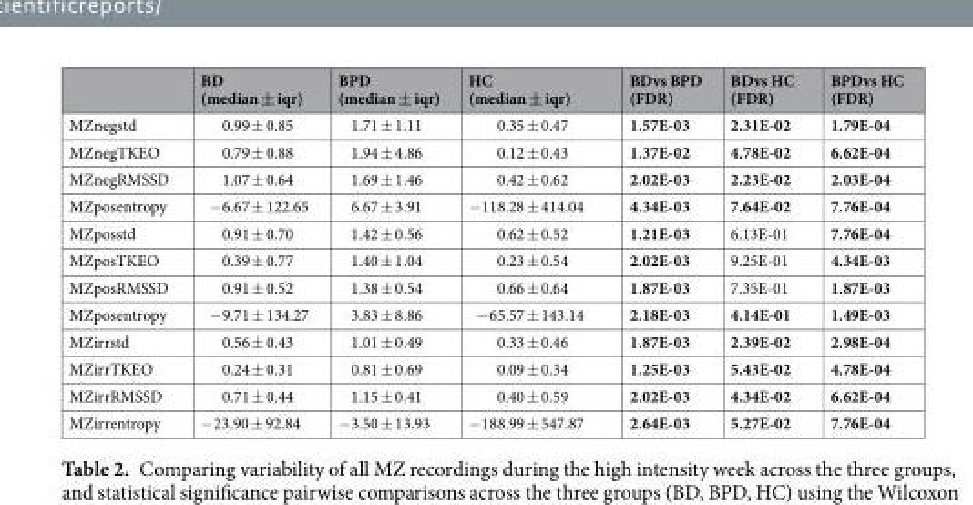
<table><thead><tr><td></td><td>BD (median ± iqr)</td><td>BPD (median ± iqr)</td><td>HC (median ± iqr)</td><td>BDvs BPD (FDR)</td><td>BDvs HC (FDR)</td><td>BPDvs HC (FDR)</td></tr></thead><tbody><tr><td>MZnegstd</td><td>0.99 ± 0.85</td><td>1.71 ± 1.11</td><td>0.35 ± 0.47</td><td>1.57E-03</td><td>2.31E-02</td><td>1.79E-04</td></tr><tr><td>MZnegTKEO</td><td>0.79 ± 0.88</td><td>1.94 ± 4.86</td><td>0.12 ± 0.43</td><td>1.37E-02</td><td>4.78E-02</td><td>6.62E-04</td></tr><tr><td>MZnegRMSSD</td><td>1.07 ± 0.64</td><td>1.69 ± 1.46</td><td>0.42 ± 0.62</td><td>2.02E-03</td><td>2.23E-02</td><td>2.03E-04</td></tr><tr><td>MZposentropy</td><td>−6.67 ± 122.65</td><td>6.67 ± 3.91</td><td>−118.28 ± 414.04</td><td>4.34E-03</td><td>7.64E-02</td><td>7.76E-04</td></tr><tr><td>MZposstd</td><td>0.91 ± 0.70</td><td>1.42 ± 0.56</td><td>0.62 ± 0.52</td><td>1.21E-03</td><td>6.13E-01</td><td>7.76E-04</td></tr><tr><td>MZposTKEO</td><td>0.39 ± 0.77</td><td>1.40 ± 1.04</td><td>0.23 ± 0.54</td><td>2.02E-03</td><td>9.25E-01</td><td>4.34E-03</td></tr><tr><td>MZposRMSSD</td><td>0.91 ± 0.52</td><td>1.38 ± 0.54</td><td>0.66 ± 0.64</td><td>1.87E-03</td><td>7.35E-01</td><td>1.87E-03</td></tr><tr><td>MZposentropy</td><td>−9.71 ± 134.27</td><td>3.83 ± 8.86</td><td>−65.57 ± 143.14</td><td>2.18E-03</td><td>4.14E-01</td><td>1.49E-03</td></tr><tr><td>MZirrstd</td><td>0.56 ± 0.43</td><td>1.01 ± 0.49</td><td>0.33 ± 0.46</td><td>1.87E-03</td><td>2.39E-02</td><td>2.98E-04</td></tr><tr><td>MZirrTKEO</td><td>0.24 ± 0.31</td><td>0.81 ± 0.69</td><td>0.09 ± 0.34</td><td>1.25E-03</td><td>5.43E-02</td><td>4.78E-04</td></tr><tr><td>MZirrRMSSD</td><td>0.71 ± 0.44</td><td>1.15 ± 0.41</td><td>0.40 ± 0.59</td><td>2.02E-03</td><td>4.34E-02</td><td>6.62E-04</td></tr><tr><td>MZirrentropy</td><td>−23.90 ± 92.84</td><td>−3.50 ± 13.93</td><td>−188.99 ± 547.87</td><td>2.64E-03</td><td>5.27E-02</td><td>7.76E-04</td></tr></tbody></table>